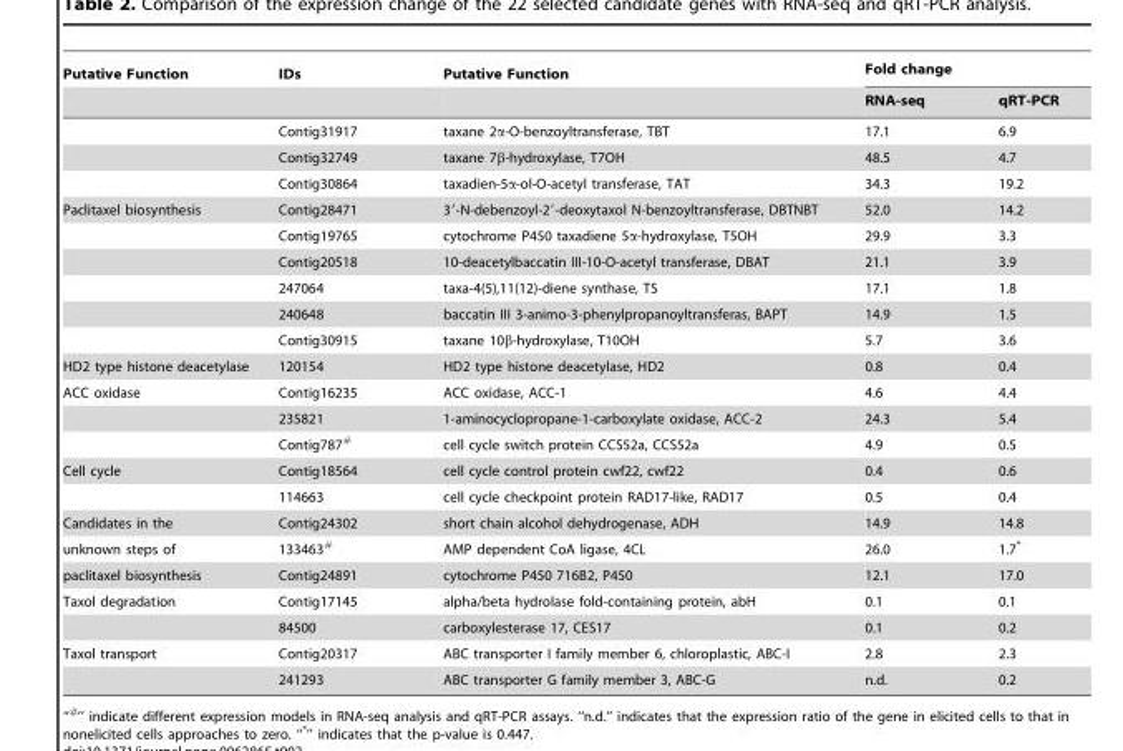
<table><thead><tr><td rowspan="2">Putative Function</td><td rowspan="2">IDs</td><td rowspan="2">Putative Function</td><td colspan="2">Fold change</td></tr><tr><td>RNA-seq</td><td>qRT-PCR</td></tr></thead><tbody><tr><td></td><td>Contig31917</td><td>taxane 2α-O-benzoyltransferase, TBT</td><td>17.1</td><td>6.9</td></tr><tr><td></td><td>Contig32749</td><td>taxane 7β-hydroxylase, T7OH</td><td>48.5</td><td>4.7</td></tr><tr><td></td><td>Contig30864</td><td>taxadien-5α-ol-O-acetyl transferase, TAT</td><td>34.3</td><td>19.2</td></tr><tr><td rowspan="6">Paclitaxel biosynthesis</td><td>Contig28471</td><td>3′-N-debenzoyl-2′-deoxytaxol N-benzoyltransferase, DBTNBT</td><td>52.0</td><td>14.2</td></tr><tr><td>Contig19765</td><td>cytochrome P450 taxadiene 5α-hydroxylase, T5OH</td><td>29.9</td><td>3.3</td></tr><tr><td>Contig20518</td><td>10-deacetylbaccatin III-10-O-acetyl transferase, DBAT</td><td>21.1</td><td>3.9</td></tr><tr><td>247064</td><td>taxa-4(5),11(12)-diene synthase, TS</td><td>17.1</td><td>1.8</td></tr><tr><td>240648</td><td>baccatin III 3-animo-3-phenylpropanoyltransferas, BAPT</td><td>14.9</td><td>1.5</td></tr><tr><td>Contig30915</td><td>taxane 10β-hydroxylase, T10OH</td><td>5.7</td><td>3.6</td></tr><tr><td>HD2 type histone deacetylase</td><td>120154</td><td>HD2 type histone deacetylase, HD2</td><td>0.8</td><td>0.4</td></tr><tr><td rowspan="3">ACC oxidase</td><td>Contig16235</td><td>ACC oxidase, ACC-1</td><td>4.6</td><td>4.4</td></tr><tr><td>235821</td><td>1-aminocyclopropane-1-carboxylate oxidase, ACC-2</td><td>24.3</td><td>5.4</td></tr><tr><td>Contig787<sup>#</sup></td><td>cell cycle switch protein CCS52a, CCS52a</td><td>4.9</td><td>0.5</td></tr><tr><td rowspan="2">Cell cycle</td><td>Contig18564</td><td>cell cycle control protein cwf22, cwf22</td><td>0.4</td><td>0.6</td></tr><tr><td>114663</td><td>cell cycle checkpoint protein RAD17-like, RAD17</td><td>0.5</td><td>0.4</td></tr><tr><td>Candidates in the</td><td>Contig24302</td><td>short chain alcohol dehydrogenase, ADH</td><td>14.9</td><td>14.8</td></tr><tr><td>unknown steps of</td><td>133463<sup>#</sup></td><td>AMP dependent CoA ligase, 4CL</td><td>26.0</td><td>1.7*</td></tr><tr><td>paclitaxel biosynthesis</td><td>Contig24891</td><td>cytochrome P450 716B2, P450</td><td>12.1</td><td>17.0</td></tr><tr><td rowspan="2">Taxol degradation</td><td>Contig17145</td><td>alpha/beta hydrolase fold-containing protein, abH</td><td>0.1</td><td>0.1</td></tr><tr><td>84500</td><td>carboxylesterase 17, CES17</td><td>0.1</td><td>0.2</td></tr><tr><td rowspan="2">Taxol transport</td><td>Contig20317</td><td>ABC transporter I family member 6, chloroplastic, ABC-I</td><td>2.8</td><td>2.3</td></tr><tr><td>241293</td><td>ABC transporter G family member 3, ABC-G</td><td>n.d.</td><td>0.2</td></tr></tbody></table>